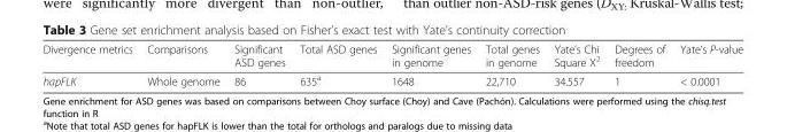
<table><thead><tr><td>Divergence metrics</td><td>Comparisons</td><td>Significant ASD genes</td><td>Total ASD genes</td><td>Significant genes in genome</td><td>Total genes in genome</td><td>Yate’s Chi Square X<sup>2</sup></td><td>Degrees of freedom</td><td>Yate’s P-value</td></tr></thead><tbody><tr><td>hapFLK</td><td>Whole genome</td><td>86</td><td>635<sup>a</sup></td><td>1648</td><td>22,710</td><td>34.557</td><td>1</td><td>&lt; 0.0001</td></tr></tbody></table>